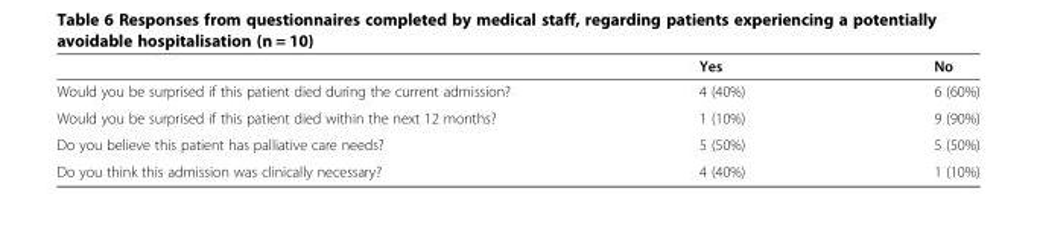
<table><thead><tr><td></td><td>Yes</td><td>No</td></tr></thead><tbody><tr><td>Would you be surprised if this patient died during the current admission?</td><td>4 (40%)</td><td>6 (60%)</td></tr><tr><td>Would you be surprised if this patient died within the next 12 months?</td><td>1 (10%)</td><td>9 (90%)</td></tr><tr><td>Do you believe this patient has palliative care needs?</td><td>5 (50%)</td><td>5 (50%)</td></tr><tr><td>Do you think this admission was clinically necessary?</td><td>4 (40%)</td><td>1 (10%)</td></tr></tbody></table>